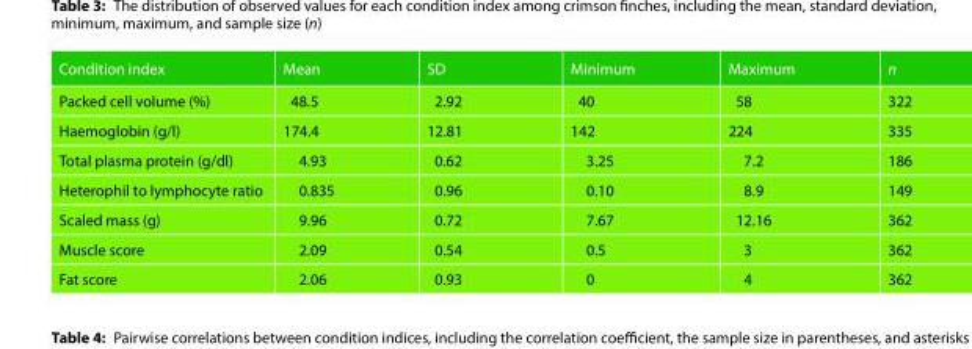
<table><thead><tr><td>Condition index</td><td>Mean</td><td>SD</td><td>Minimum</td><td>Maximum</td><td>n</td></tr></thead><tbody><tr><td>Packed cell volume (%)</td><td>48.5</td><td>2.92</td><td>40</td><td>58</td><td>322</td></tr><tr><td>Haemoglobin (g/l)</td><td>174.4</td><td>12.81</td><td>142</td><td>224</td><td>335</td></tr><tr><td>Total plasma protein (g/dl)</td><td>4.93</td><td>0.62</td><td>3.25</td><td>7.2</td><td>186</td></tr><tr><td>Heterophil to lymphocyte ratio</td><td>0.835</td><td>0.96</td><td>0.10</td><td>8.9</td><td>149</td></tr><tr><td>Scaled mass (g)</td><td>9.96</td><td>0.72</td><td>7.67</td><td>12.16</td><td>362</td></tr><tr><td>Muscle score</td><td>2.09</td><td>0.54</td><td>0.5</td><td>3</td><td>362</td></tr><tr><td>Fat score</td><td>2.06</td><td>0.93</td><td>0</td><td>4</td><td>362</td></tr></tbody></table>